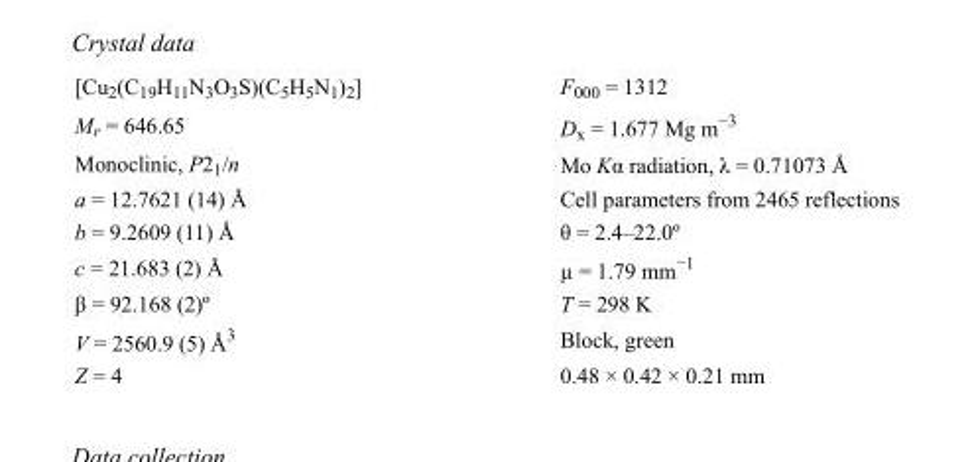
<table><tbody><tr><td>[Cu2(C19H11N3O3S)(C5H5N1)2]</td><td>F000 = 1312</td></tr><tr><td>M<sub>r</sub> = 646.65</td><td>D<sub>x</sub> = 1.677 Mg m<sup>−3</sup></td></tr><tr><td>Monoclinic, P2<sub>1</sub>/n</td><td>Mo Kα radiation, λ = 0.71073 Å</td></tr><tr><td>a = 12.7621 (14) Å</td><td>Cell parameters from 2465 reflections</td></tr><tr><td>b = 9.2609 (11) Å</td><td>θ = 2.4–22.0º</td></tr><tr><td>c = 21.683 (2) Å</td><td>µ = 1.79 mm<sup>−1</sup></td></tr><tr><td>β = 92.168 (2)º</td><td>T = 298 K</td></tr><tr><td>V = 2560.9 (5) Å<sup>3</sup></td><td>Block, green</td></tr><tr><td>Z = 4</td><td>0.48 × 0.42 × 0.21 mm</td></tr></tbody></table>